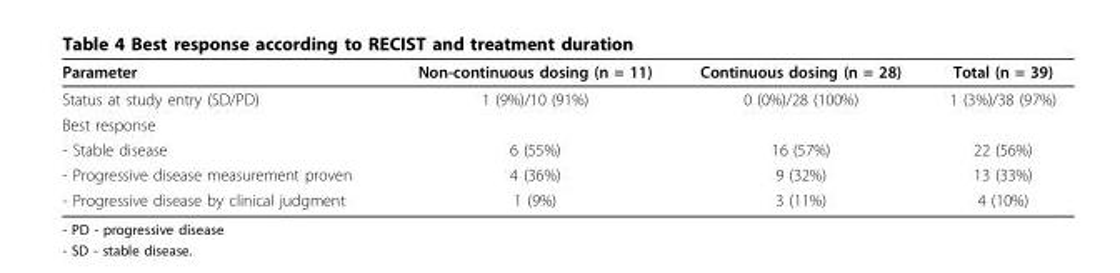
<table><thead><tr><td>Parameter</td><td>Non-continuous dosing (n = 11)</td><td>Continuous dosing (n = 28)</td><td>Total (n = 39)</td></tr></thead><tbody><tr><td>Status at study entry (SD/PD)</td><td>1 (9%)/10 (91%)</td><td>0 (0%)/28 (100%)</td><td>1 (3%)/38 (97%)</td></tr><tr><td colspan="4">Best response</td></tr><tr><td>- Stable disease</td><td>6 (55%)</td><td>16 (57%)</td><td>22 (56%)</td></tr><tr><td>- Progressive disease measurement proven</td><td>4 (36%)</td><td>9 (32%)</td><td>13 (33%)</td></tr><tr><td>- Progressive disease by clinical judgment</td><td>1 (9%)</td><td>3 (11%)</td><td>4 (10%)</td></tr></tbody></table>